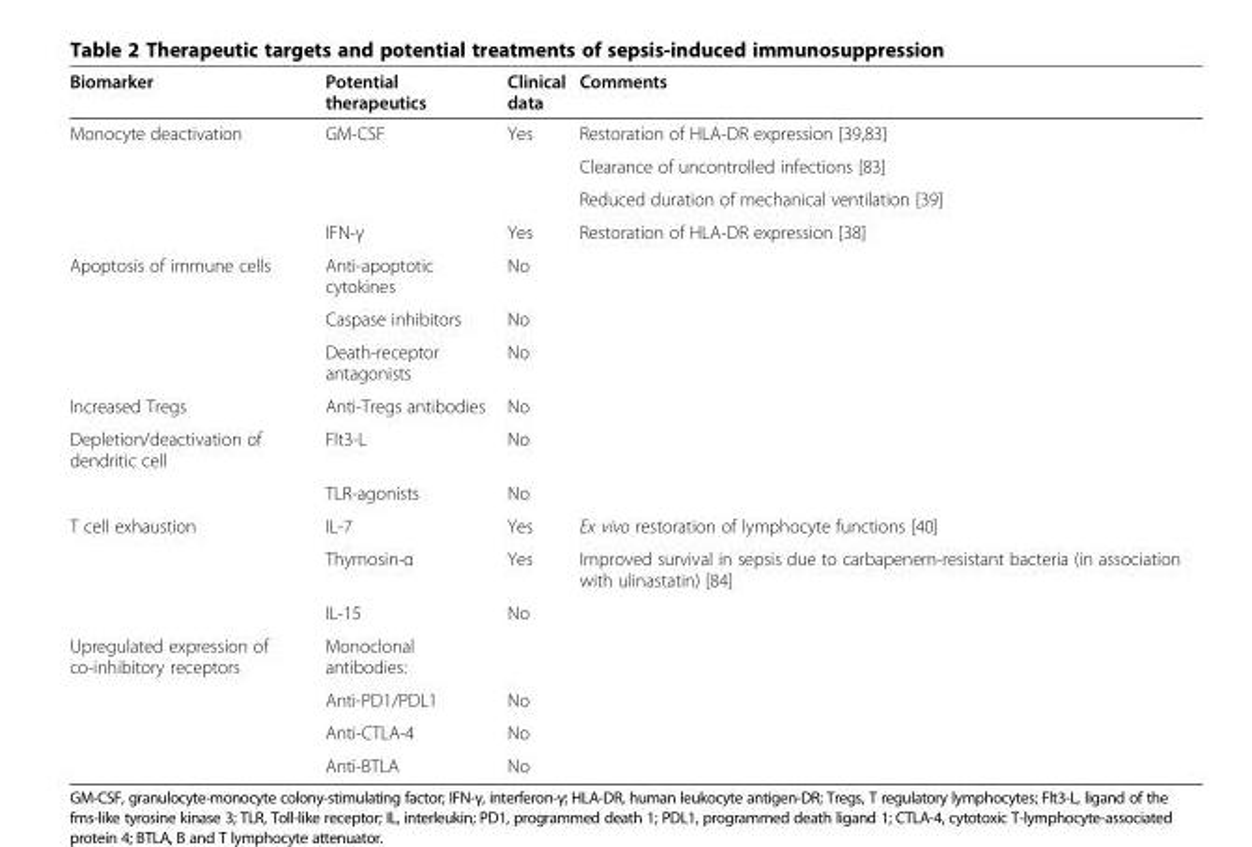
<table><thead><tr><td>Biomarker</td><td>Potential therapeutics</td><td>Clinical data</td><td>Comments</td></tr></thead><tbody><tr><td rowspan="4">Monocyte deactivation</td><td>GM-CSF</td><td>Yes</td><td>Restoration of HLA-DR expression [39,83]</td></tr><tr><td></td><td></td><td>Clearance of uncontrolled infections [83]</td></tr><tr><td></td><td></td><td>Reduced duration of mechanical ventilation [39]</td></tr><tr><td>IFN-γ</td><td>Yes</td><td>Restoration of HLA-DR expression [38]</td></tr><tr><td rowspan="3">Apoptosis of immune cells</td><td>Anti-apoptotic cytokines</td><td>No</td><td></td></tr><tr><td>Caspase inhibitors</td><td>No</td><td></td></tr><tr><td>Death-receptor antagonists</td><td>No</td><td></td></tr><tr><td>Increased Tregs</td><td>Anti-Tregs antibodies</td><td>No</td><td></td></tr><tr><td rowspan="2">Depletion/deactivation of dendritic cell</td><td>Flt3-L</td><td>No</td><td></td></tr><tr><td>TLR-agonists</td><td>No</td><td></td></tr><tr><td rowspan="3">T cell exhaustion</td><td>IL-7</td><td>Yes</td><td>Ex vivo restoration of lymphocyte functions [40]</td></tr><tr><td>Thymosin-α</td><td>Yes</td><td>Improved survival in sepsis due to carbapenem-resistant bacteria (in association with ulinastatin) [84]</td></tr><tr><td>IL-15</td><td>No</td><td></td></tr><tr><td rowspan="4">Upregulated expression of co-inhibitory receptors</td><td>Monoclonal antibodies:</td><td></td><td></td></tr><tr><td>Anti-PD1/PDL1</td><td>No</td><td></td></tr><tr><td>Anti-CTLA-4</td><td>No</td><td></td></tr><tr><td>Anti-BTLA</td><td>No</td><td></td></tr></tbody></table>